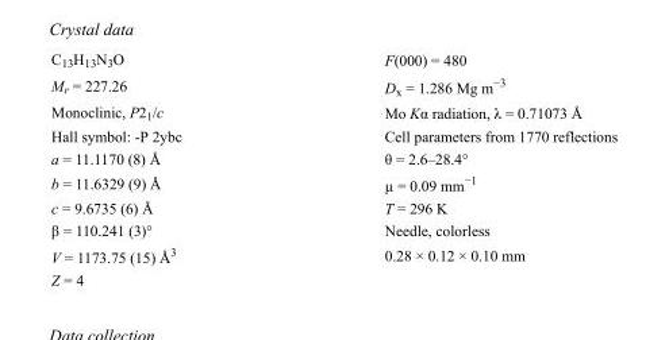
<table><tbody><tr><td>C<sub>13</sub>H<sub>13</sub>N<sub>3</sub>O</td><td>F(000) = 480</td></tr><tr><td>M<sub>r</sub> = 227.26</td><td>D<sub>x</sub> = 1.286 Mg m<sup>−3</sup></td></tr><tr><td>Monoclinic, P2<sub>1</sub>/c</td><td>Mo Kα radiation, λ = 0.71073 Å</td></tr><tr><td>Hall symbol: -P 2ybc</td><td>Cell parameters from 1770 reflections</td></tr><tr><td>a = 11.1170 (8) Å</td><td>θ = 2.6–28.4°</td></tr><tr><td>b = 11.6329 (9) Å</td><td>µ = 0.09 mm<sup>−1</sup></td></tr><tr><td>c = 9.6735 (6) Å</td><td>T = 296 K</td></tr><tr><td>β = 110.241 (3)°</td><td>Needle, colorless</td></tr><tr><td>V = 1173.75 (15) Å<sup>3</sup></td><td>0.28 × 0.12 × 0.10 mm</td></tr><tr><td>Z = 4</td><td></td></tr></tbody></table>